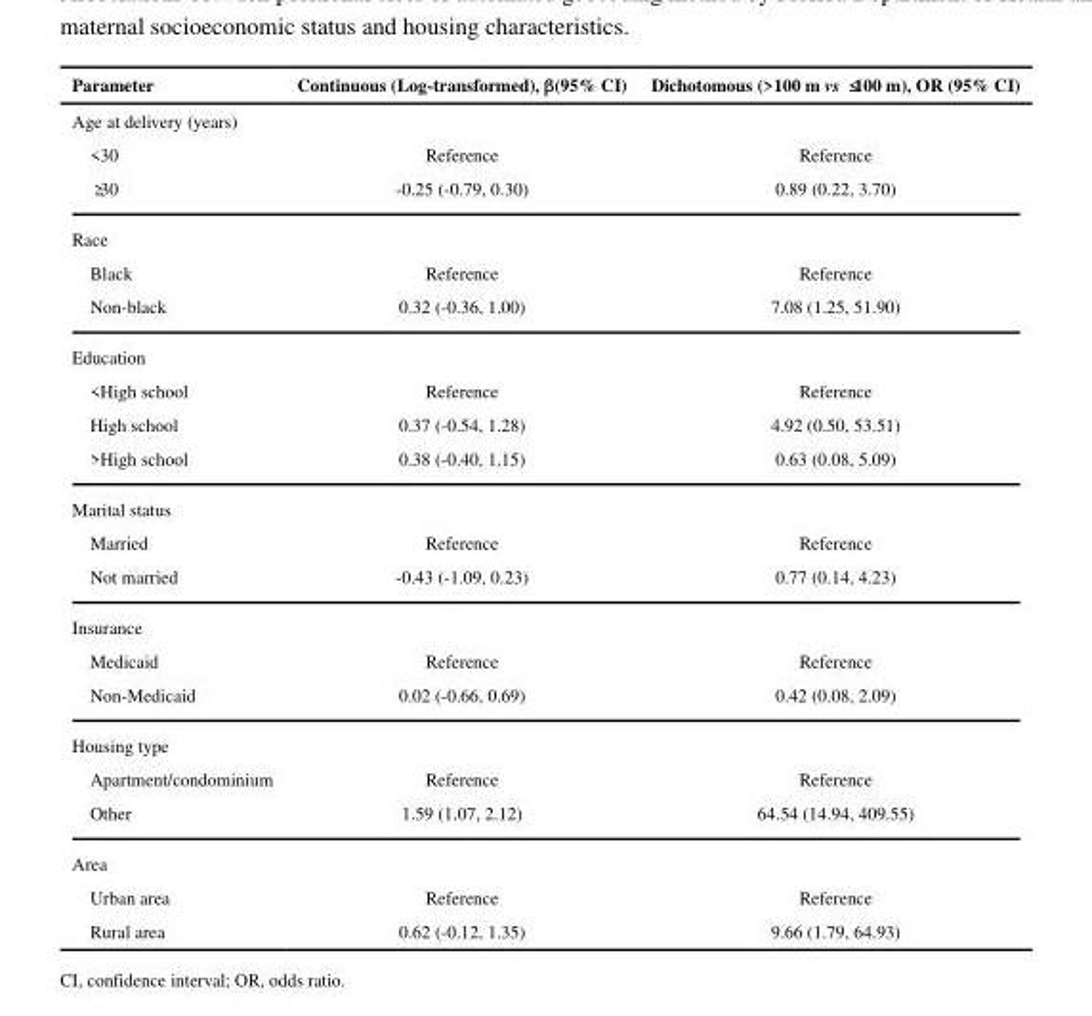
<table><thead><tr><td>Parameter</td><td>Continuous (Log-transformed), β(95% CI)</td><td>Dichotomous (&gt;100 m vs ≤100 m), OR (95% CI)</td></tr></thead><tbody><tr><td colspan="3">Age at delivery (years)</td></tr><tr><td>&lt;30</td><td>Reference</td><td>Reference</td></tr><tr><td>≥30</td><td>-0.25 (-0.79, 0.30)</td><td>0.89 (0.22, 3.70)</td></tr><tr><td colspan="3">Race</td></tr><tr><td>Black</td><td>Reference</td><td>Reference</td></tr><tr><td>Non-black</td><td>0.32 (-0.36, 1.00)</td><td>7.08 (1.25, 51.90)</td></tr><tr><td colspan="3">Education</td></tr><tr><td>&lt;High school</td><td>Reference</td><td>Reference</td></tr><tr><td>High school</td><td>0.37 (-0.54, 1.28)</td><td>4.92 (0.50, 53.51)</td></tr><tr><td>&gt;High school</td><td>0.38 (-0.40, 1.15)</td><td>0.63 (0.08, 5.09)</td></tr><tr><td colspan="3">Marital status</td></tr><tr><td>Married</td><td>Reference</td><td>Reference</td></tr><tr><td>Not married</td><td>-0.43 (-1.09, 0.23)</td><td>0.77 (0.14, 4.23)</td></tr><tr><td colspan="3">Insurance</td></tr><tr><td>Medicaid</td><td>Reference</td><td>Reference</td></tr><tr><td>Non-Medicaid</td><td>0.02 (-0.66, 0.69)</td><td>0.42 (0.08, 2.09)</td></tr><tr><td colspan="3">Housing type</td></tr><tr><td>Apartment/condominium</td><td>Reference</td><td>Reference</td></tr><tr><td>Other</td><td>1.59 (1.07, 2.12)</td><td>64.54 (14.94, 409.55)</td></tr><tr><td colspan="3">Area</td></tr><tr><td>Urban area</td><td>Reference</td><td>Reference</td></tr><tr><td>Rural area</td><td>0.62 (-0.12, 1.35)</td><td>9.66 (1.79, 64.93)</td></tr></tbody></table>